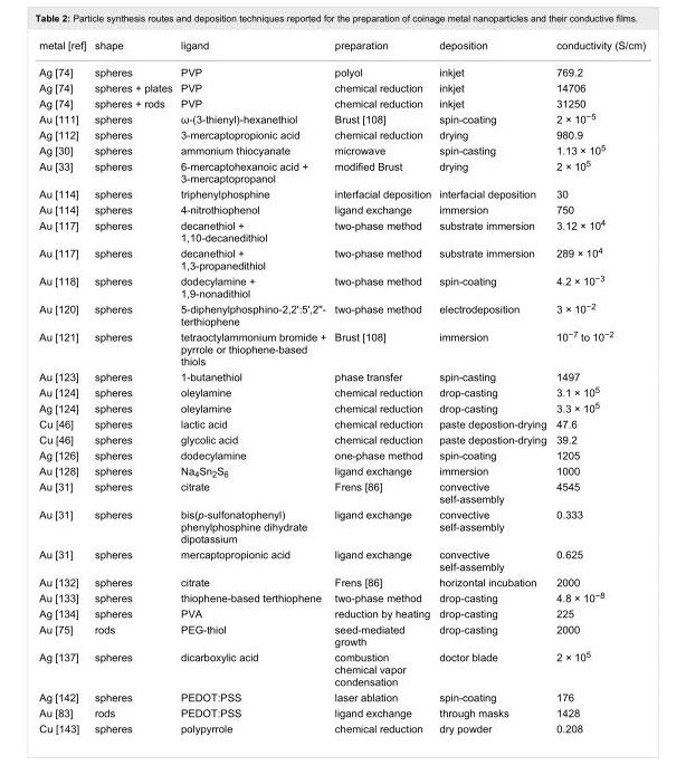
<table><tbody><tr><td>metal [ref]</td><td>shape</td><td>ligand</td><td>preparation</td><td>deposition</td><td>conductivity (S/cm)</td></tr><tr><td>Ag [74]</td><td>spheres</td><td>PVP</td><td>polyol</td><td>inkjet</td><td>769.2</td></tr><tr><td>Ag [74]</td><td>spheres + plates</td><td>PVP</td><td>chemical reduction</td><td>inkjet</td><td>14706</td></tr><tr><td>Ag [74]</td><td>spheres + rods</td><td>PVP</td><td>chemical reduction</td><td>inkjet</td><td>31250</td></tr><tr><td>Au [111]</td><td>spheres</td><td>ω-(3-thienyl)-hexanethiol</td><td>Brust [108]</td><td>spin-coating</td><td>2 × 10<sup>−5</sup></td></tr><tr><td>Ag [112]</td><td>spheres</td><td>3-mercaptopropionic acid</td><td>chemical reduction</td><td>drying</td><td>980.9</td></tr><tr><td>Ag [30]</td><td>spheres</td><td>ammonium thiocyanate</td><td>microwave</td><td>spin-casting</td><td>1.13 × 10<sup>5</sup></td></tr><tr><td>Au [33]</td><td>spheres</td><td>6-mercaptohexanoic acid + 3-mercaptopropanol</td><td>modified Brust</td><td>drying</td><td>2 × 10<sup>5</sup></td></tr><tr><td>Au [114]</td><td>spheres</td><td>triphenylphosphine</td><td>interfacial deposition</td><td>interfacial deposition</td><td>30</td></tr><tr><td>Au [114]</td><td>spheres</td><td>4-nitrothiophenol</td><td>ligand exchange</td><td>immersion</td><td>750</td></tr><tr><td>Au [117]</td><td>spheres</td><td>decanethiol + 1,10-decanedithiol</td><td>two-phase method</td><td>substrate immersion</td><td>3.12 × 10<sup>4</sup></td></tr><tr><td>Au [117]</td><td>spheres</td><td>decanethiol + 1,3-propanedithiol</td><td>two-phase method</td><td>substrate immersion</td><td>289 × 10<sup>4</sup></td></tr><tr><td>Au [118]</td><td>spheres</td><td>dodecylamine + 1,9-nonadithiol</td><td>two-phase method</td><td>spin-coating</td><td>4.2 × 10<sup>−3</sup></td></tr><tr><td>Au [120]</td><td>spheres</td><td>5-diphenylphosphino-2,2&#x27;:5&#x27;,2&#x27;&#x27;- terthiophene</td><td>two-phase method</td><td>electrodeposition</td><td>3 × 10<sup>−2</sup></td></tr><tr><td>Au [121]</td><td>spheres</td><td>tetraoctylammonium bromide + pyrrole or thiophene-based thiols</td><td>Brust [108]</td><td>immersion</td><td>10<sup>−7</sup> to 10<sup>−2</sup></td></tr><tr><td>Au [123]</td><td>spheres</td><td>1-butanethiol</td><td>phase transfer</td><td>spin-casting</td><td>1497</td></tr><tr><td>Au [124]</td><td>spheres</td><td>oleylamine</td><td>chemical reduction</td><td>drop-casting</td><td>3.1 × 10<sup>5</sup></td></tr><tr><td>Ag [124]</td><td>spheres</td><td>oleylamine</td><td>chemical reduction</td><td>drop-casting</td><td>3.3 × 10<sup>5</sup></td></tr><tr><td>Cu [46]</td><td>spheres</td><td>lactic acid</td><td>chemical reduction</td><td>paste depostion-drying</td><td>47.6</td></tr><tr><td>Cu [46]</td><td>spheres</td><td>glycolic acid</td><td>chemical reduction</td><td>paste depostion-drying</td><td>39.2</td></tr><tr><td>Ag [126]</td><td>spheres</td><td>dodecylamine</td><td>one-phase method</td><td>spin-coating</td><td>1205</td></tr><tr><td>Au [128]</td><td>spheres</td><td>Na<sub>4</sub>Sn<sub>2</sub>S<sub>6</sub></td><td>ligand exchange</td><td>immersion</td><td>1000</td></tr><tr><td>Au [31]</td><td>spheres</td><td>citrate</td><td>Frens [86]</td><td>convective self-assembly</td><td>4545</td></tr><tr><td>Au [31]</td><td>spheres</td><td>bis(p-sulfonatophenyl) phenylphosphine dihydrate dipotassium</td><td>ligand exchange</td><td>convective self-assembly</td><td>0.333</td></tr><tr><td>Au [31]</td><td>spheres</td><td>mercaptopropionic acid</td><td>ligand exchange</td><td>convective self-assembly</td><td>0.625</td></tr><tr><td>Au [132]</td><td>spheres</td><td>citrate</td><td>Frens [86]</td><td>horizontal incubation</td><td>2000</td></tr><tr><td>Au [133]</td><td>spheres</td><td>thiophene-based terthiophene</td><td>two-phase method</td><td>drop-casting</td><td>4.8 × 10<sup>−8</sup></td></tr><tr><td>Ag [134]</td><td>spheres</td><td>PVA</td><td>reduction by heating</td><td>drop-casting</td><td>225</td></tr><tr><td>Au [75]</td><td>rods</td><td>PEG-thiol</td><td>seed-mediated growth</td><td>drop-casting</td><td>2000</td></tr><tr><td>Ag [137]</td><td>spheres</td><td>dicarboxylic acid</td><td>combustion chemical vapor condensation</td><td>doctor blade</td><td>2 × 10<sup>5</sup></td></tr><tr><td>Ag [142]</td><td>spheres</td><td>PEDOT:PSS</td><td>laser ablation</td><td>spin-coating</td><td>176</td></tr><tr><td>Au [83]</td><td>rods</td><td>PEDOT:PSS</td><td>ligand exchange</td><td>through masks</td><td>1428</td></tr><tr><td>Cu [143]</td><td>spheres</td><td>polypyrrole</td><td>chemical reduction</td><td>dry powder</td><td>0.208</td></tr></tbody></table>